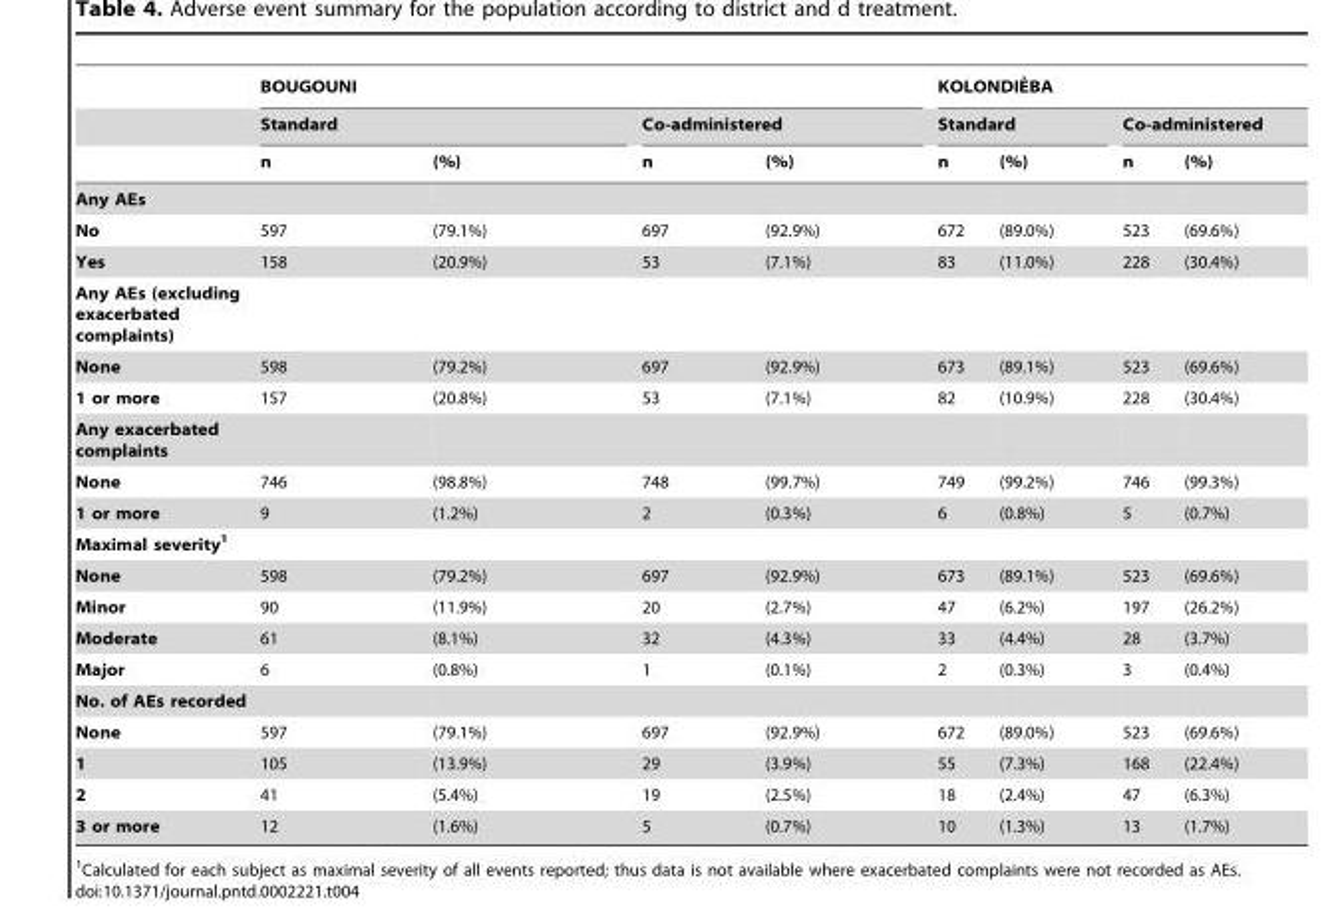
<table><thead><tr><td rowspan="3"></td><td colspan="4">BOUGOUNI</td><td colspan="4">KOLONDIE`BA</td></tr><tr><td colspan="2">Standard</td><td colspan="2">Co-administered</td><td colspan="2">Standard</td><td colspan="2">Co-administered</td></tr><tr><td>n</td><td>(%)</td><td>n</td><td>(%)</td><td>n</td><td>(%)</td><td>n</td><td>(%)</td></tr></thead><tbody><tr><td colspan="9">Any AEs</td></tr><tr><td>No</td><td>597</td><td>(79.1%)</td><td>697</td><td>(92.9%)</td><td>672</td><td>(89.0%)</td><td>523</td><td>(69.6%)</td></tr><tr><td>Yes</td><td>158</td><td>(20.9%)</td><td>53</td><td>(7.1%)</td><td>83</td><td>(11.0%)</td><td>228</td><td>(30.4%)</td></tr><tr><td colspan="9">Any AEs (excluding exacerbated complaints)</td></tr><tr><td>None</td><td>598</td><td>(79.2%)</td><td>697</td><td>(92.9%)</td><td>673</td><td>(89.1%)</td><td>523</td><td>(69.6%)</td></tr><tr><td>1 or more</td><td>157</td><td>(20.8%)</td><td>53</td><td>(7.1%)</td><td>82</td><td>(10.9%)</td><td>228</td><td>(30.4%)</td></tr><tr><td colspan="9">Any exacerbated complaints</td></tr><tr><td>None</td><td>746</td><td>(98.8%)</td><td>748</td><td>(99.7%)</td><td>749</td><td>(99.2%)</td><td>746</td><td>(99.3%)</td></tr><tr><td>1 or more</td><td>9</td><td>(1.2%)</td><td>2</td><td>(0.3%)</td><td>6</td><td>(0.8%)</td><td>5</td><td>(0.7%)</td></tr><tr><td colspan="9">Maximal severity1</td></tr><tr><td>None</td><td>598</td><td>(79.2%)</td><td>697</td><td>(92.9%)</td><td>673</td><td>(89.1%)</td><td>523</td><td>(69.6%)</td></tr><tr><td>Minor</td><td>90</td><td>(11.9%)</td><td>20</td><td>(2.7%)</td><td>47</td><td>(6.2%)</td><td>197</td><td>(26.2%)</td></tr><tr><td>Moderate</td><td>61</td><td>(8.1%)</td><td>32</td><td>(4.3%)</td><td>33</td><td>(4.4%)</td><td>28</td><td>(3.7%)</td></tr><tr><td>Major</td><td>6</td><td>(0.8%)</td><td>1</td><td>(0.1%)</td><td>2</td><td>(0.3%)</td><td>3</td><td>(0.4%)</td></tr><tr><td colspan="9">No. of AEs recorded</td></tr><tr><td>None</td><td>597</td><td>(79.1%)</td><td>697</td><td>(92.9%)</td><td>672</td><td>(89.0%)</td><td>523</td><td>(69.6%)</td></tr><tr><td>1</td><td>105</td><td>(13.9%)</td><td>29</td><td>(3.9%)</td><td>55</td><td>(7.3%)</td><td>168</td><td>(22.4%)</td></tr><tr><td>2</td><td>41</td><td>(5.4%)</td><td>19</td><td>(2.5%)</td><td>18</td><td>(2.4%)</td><td>47</td><td>(6.3%)</td></tr><tr><td>3 or more</td><td>12</td><td>(1.6%)</td><td>5</td><td>(0.7%)</td><td>10</td><td>(1.3%)</td><td>13</td><td>(1.7%)</td></tr></tbody></table>